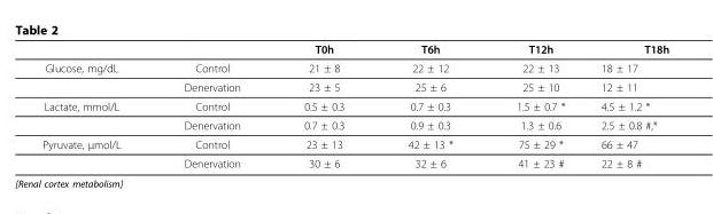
<table><thead><tr><td></td><td></td><td>T0h</td><td>T6h</td><td>T12h</td><td>T18h</td></tr></thead><tbody><tr><td rowspan="2">Glucose, mg/dL</td><td>Control</td><td>21 ± 8</td><td>22 ± 12</td><td>22 ± 13</td><td>18 ± 17</td></tr><tr><td>Denervation</td><td>23 ± 5</td><td>25 ± 6</td><td>25 ± 10</td><td>12 ± 11</td></tr><tr><td rowspan="2">Lactate, mmol/L</td><td>Control</td><td>0.5 ± 0.3</td><td>0.7 ± 0.3</td><td>1.5 ± 0.7 *</td><td>4.5 ± 1.2 *</td></tr><tr><td>Denervation</td><td>0.7 ± 0.3</td><td>0.9 ± 0.3</td><td>1.3 ± 0.6</td><td>2.5 ± 0.8 #,*</td></tr><tr><td rowspan="2">Pyruvate, μmol/L</td><td>Control</td><td>23 ± 13</td><td>42 ± 13 *</td><td>75 ± 29 *</td><td>66 ± 47</td></tr><tr><td>Denervation</td><td>30 ± 6</td><td>32 ± 6</td><td>41 ± 23 #</td><td>22 ± 8 #</td></tr></tbody></table>